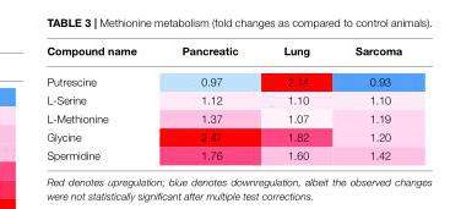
<table><thead><tr><td>Compound name</td><td>Pancreatic</td><td>Lung</td><td>Sarcoma</td></tr></thead><tbody><tr><td>Putrescine</td><td>0.97</td><td>2.14</td><td>0.93</td></tr><tr><td>L-Serine</td><td>1.12</td><td>1.10</td><td>1.10</td></tr><tr><td>L-Methionine</td><td>1.37</td><td>1.07</td><td>1.19</td></tr><tr><td>Glycine</td><td>2.47</td><td>1.82</td><td>1.20</td></tr><tr><td>Spermidine</td><td>1.76</td><td>1.60</td><td>1.42</td></tr></tbody></table>